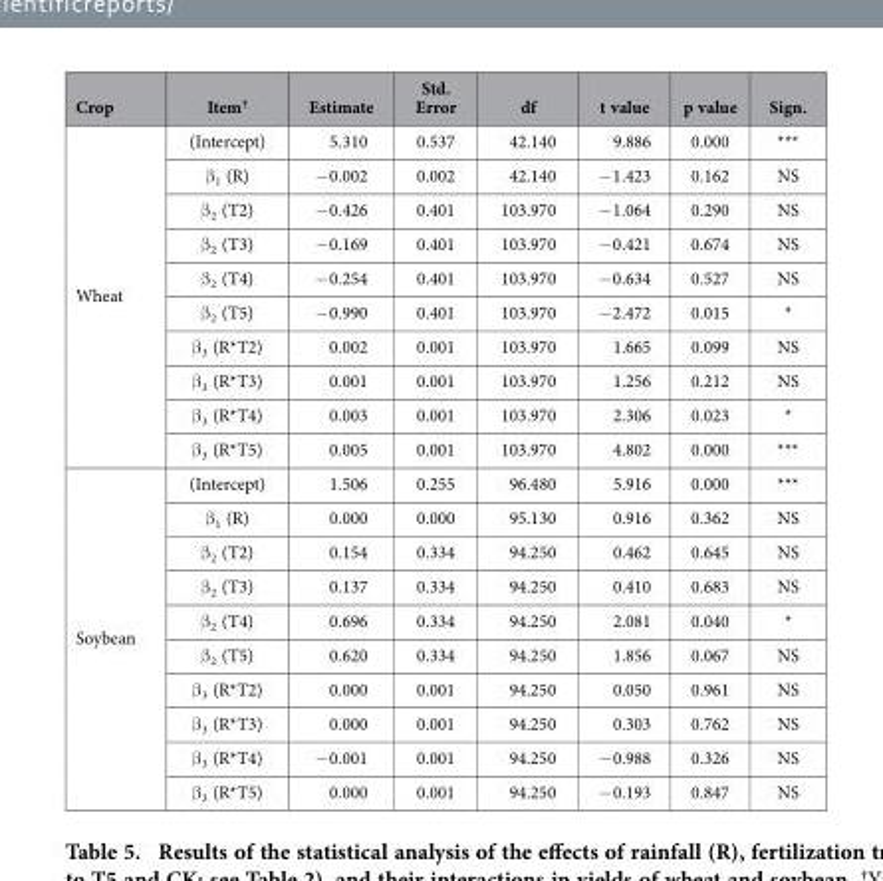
<table><thead><tr><td>Crop</td><td>Item†</td><td>Estimate</td><td>Std. Error</td><td>df</td><td>t value</td><td>p value</td><td>Sign.</td></tr></thead><tbody><tr><td rowspan="10">Wheat</td><td>(Intercept)</td><td>5.310</td><td>0.537</td><td>42.140</td><td>9.886</td><td>0.000</td><td>***</td></tr><tr><td>β <sub>1</sub> (R)</td><td>− 0.002</td><td>0.002</td><td>42.140</td><td>− 1.423</td><td>0.162</td><td>NS</td></tr><tr><td>β <sub>2</sub> (T2)</td><td>− 0.426</td><td>0.401</td><td>103.970</td><td>− 1.064</td><td>0.290</td><td>NS</td></tr><tr><td>β <sub>2</sub> (T3)</td><td>− 0.169</td><td>0.401</td><td>103.970</td><td>− 0.421</td><td>0.674</td><td>NS</td></tr><tr><td>β <sub>2</sub> (T4)</td><td>− 0.254</td><td>0.401</td><td>103.970</td><td>− 0.634</td><td>0.527</td><td>NS</td></tr><tr><td>β <sub>2</sub> (T5)</td><td>− 0.990</td><td>0.401</td><td>103.970</td><td>− 2.472</td><td>0.015</td><td>*</td></tr><tr><td>β <sub>3</sub> (R*T2)</td><td>0.002</td><td>0.001</td><td>103.970</td><td>1.665</td><td>0.099</td><td>NS</td></tr><tr><td>β <sub>3</sub> (R*T3)</td><td>0.001</td><td>0.001</td><td>103.970</td><td>1.256</td><td>0.212</td><td>NS</td></tr><tr><td>β <sub>3</sub> (R*T4)</td><td>0.003</td><td>0.001</td><td>103.970</td><td>2.306</td><td>0.023</td><td>*</td></tr><tr><td>β <sub>3</sub> (R*T5)</td><td>0.005</td><td>0.001</td><td>103.970</td><td>4.802</td><td>0.000</td><td>***</td></tr><tr><td rowspan="10">Soybean</td><td>(Intercept)</td><td>1.506</td><td>0.255</td><td>96.480</td><td>5.916</td><td>0.000</td><td>***</td></tr><tr><td>β <sub>1</sub> (R)</td><td>0.000</td><td>0.000</td><td>95.130</td><td>0.916</td><td>0.362</td><td>NS</td></tr><tr><td>β <sub>2</sub> (T2)</td><td>0.154</td><td>0.334</td><td>94.250</td><td>0.462</td><td>0.645</td><td>NS</td></tr><tr><td>β <sub>2</sub> (T3)</td><td>0.137</td><td>0.334</td><td>94.250</td><td>0.410</td><td>0.683</td><td>NS</td></tr><tr><td>β <sub>2</sub> (T4)</td><td>0.696</td><td>0.334</td><td>94.250</td><td>2.081</td><td>0.040</td><td>*</td></tr><tr><td>β <sub>2</sub> (T5)</td><td>0.620</td><td>0.334</td><td>94.250</td><td>1.856</td><td>0.067</td><td>NS</td></tr><tr><td>β <sub>3</sub> (R*T2)</td><td>0.000</td><td>0.001</td><td>94.250</td><td>0.050</td><td>0.961</td><td>NS</td></tr><tr><td>β <sub>3</sub> (R*T3)</td><td>0.000</td><td>0.001</td><td>94.250</td><td>0.303</td><td>0.762</td><td>NS</td></tr><tr><td>β <sub>3</sub> (R*T4)</td><td>− 0.001</td><td>0.001</td><td>94.250</td><td>− 0.988</td><td>0.326</td><td>NS</td></tr><tr><td>β <sub>3</sub> (R*T5)</td><td>0.000</td><td>0.001</td><td>94.250</td><td>− 0.193</td><td>0.847</td><td>NS</td></tr></tbody></table>